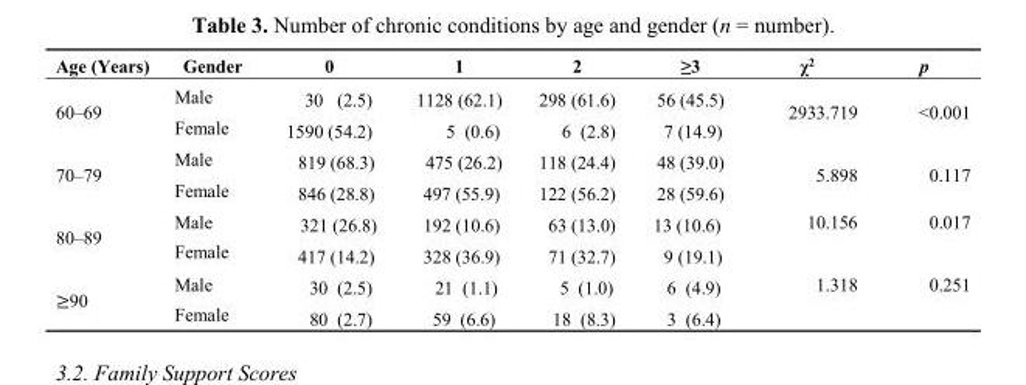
<table><thead><tr><td>Age (Years)</td><td>Gender</td><td>0</td><td>1</td><td>2</td><td>≥3</td><td>χ<sup>2</sup></td><td>p</td></tr></thead><tbody><tr><td rowspan="2">60–69</td><td>Male</td><td>30 (2.5)</td><td>1128 (62.1)</td><td>298 (61.6)</td><td>56 (45.5)</td><td rowspan="2">2933.719</td><td rowspan="2">&lt;0.001</td></tr><tr><td>Female</td><td>1590 (54.2)</td><td>5 (0.6)</td><td>6 (2.8)</td><td>7 (14.9)</td></tr><tr><td rowspan="2">70–79</td><td>Male</td><td>819 (68.3)</td><td>475 (26.2)</td><td>118 (24.4)</td><td>48 (39.0)</td><td rowspan="2">5.898</td><td rowspan="2">0.117</td></tr><tr><td>Female</td><td>846 (28.8)</td><td>497 (55.9)</td><td>122 (56.2)</td><td>28 (59.6)</td></tr><tr><td rowspan="2">80–89</td><td>Male</td><td>321 (26.8)</td><td>192 (10.6)</td><td>63 (13.0)</td><td>13 (10.6)</td><td>10.156</td><td>0.017</td></tr><tr><td>Female</td><td>417 (14.2)</td><td>328 (36.9)</td><td>71 (32.7)</td><td>9 (19.1)</td><td></td><td></td></tr><tr><td rowspan="2">≥90</td><td>Male</td><td>30 (2.5)</td><td>21 (1.1)</td><td>5 (1.0)</td><td>6 (4.9)</td><td>1.318</td><td>0.251</td></tr><tr><td>Female</td><td>80 (2.7)</td><td>59 (6.6)</td><td>18 (8.3)</td><td>3 (6.4)</td><td></td><td></td></tr></tbody></table>